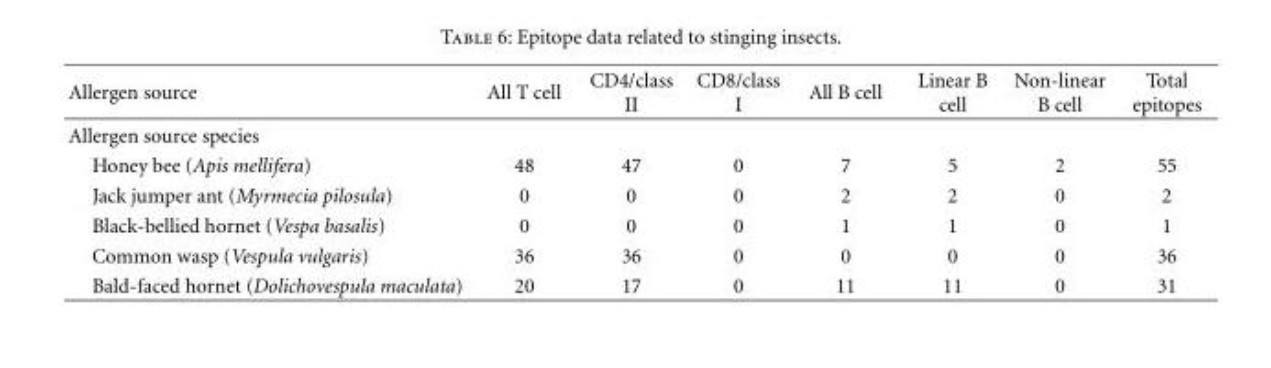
<table><thead><tr><td>Allergen source</td><td>All T cell</td><td>CD4/class II</td><td>CD8/class I</td><td>All B cell</td><td>Linear B cell</td><td>Non-linear B cell</td><td>Total epitopes</td></tr></thead><tbody><tr><td colspan="8">Allergen source species</td></tr><tr><td>Honey bee (Apis mellifera)</td><td>48</td><td>47</td><td>0</td><td>7</td><td>5</td><td>2</td><td>55</td></tr><tr><td>Jack jumper ant (Myrmecia pilosula)</td><td>0</td><td>0</td><td>0</td><td>2</td><td>2</td><td>0</td><td>2</td></tr><tr><td>Black-bellied hornet (Vespa basalis)</td><td>0</td><td>0</td><td>0</td><td>1</td><td>1</td><td>0</td><td>1</td></tr><tr><td>Common wasp (Vespula vulgaris)</td><td>36</td><td>36</td><td>0</td><td>0</td><td>0</td><td>0</td><td>36</td></tr><tr><td>Bald-faced hornet (Dolichovespula maculata)</td><td>20</td><td>17</td><td>0</td><td>11</td><td>11</td><td>0</td><td>31</td></tr></tbody></table>